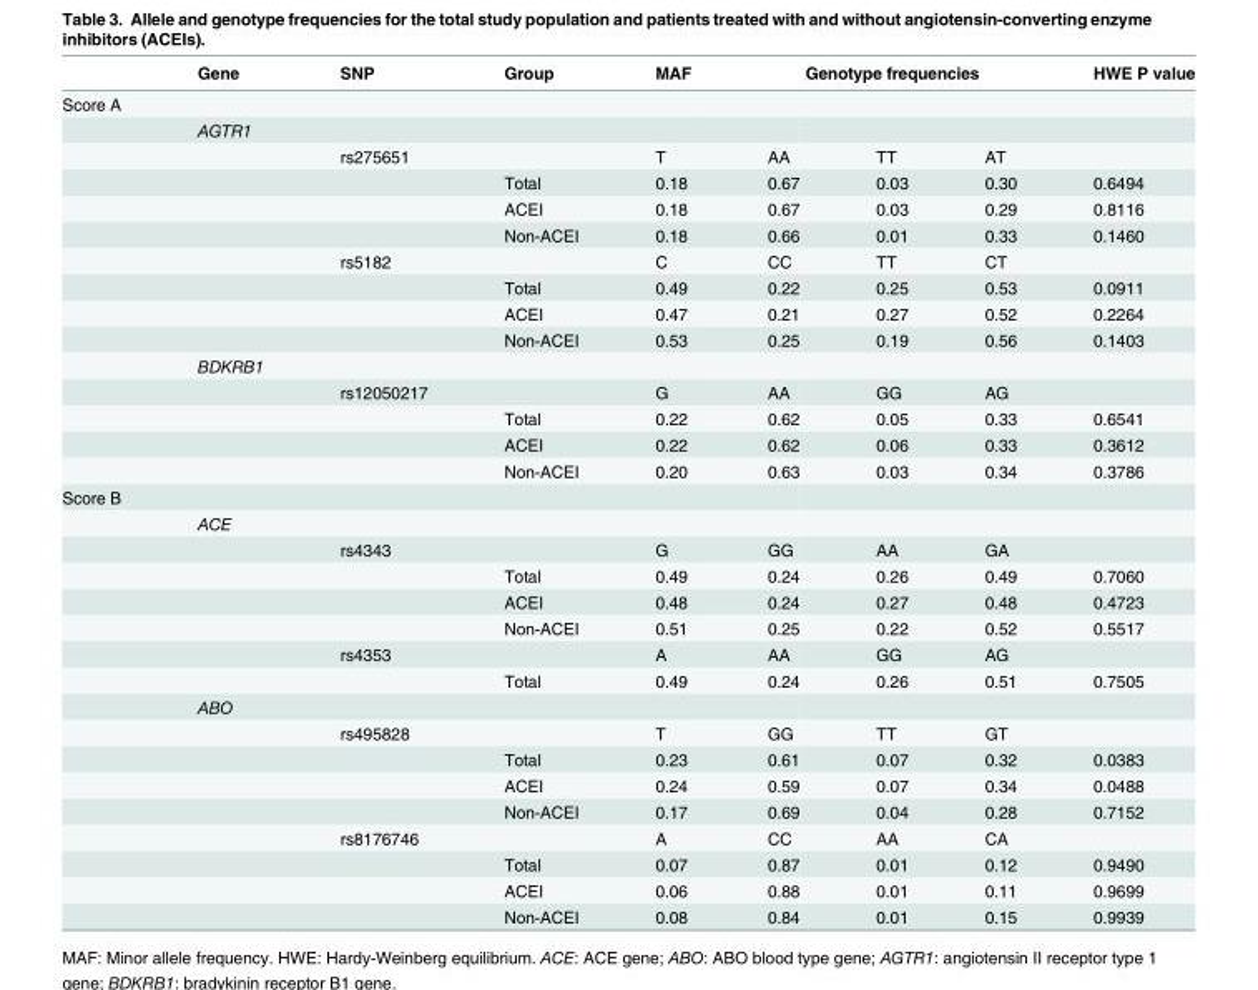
<table><thead><tr><td rowspan="2">Score A</td><td rowspan="2">Gene</td><td rowspan="2">SNP</td><td rowspan="2">Group</td><td rowspan="2">MAF</td><td colspan="3">Genotype frequencies</td><td rowspan="2">HWE P value</td></tr><tr><td></td><td></td><td></td></tr></thead><tbody><tr><td></td><td>AGTR1</td><td></td><td></td><td></td><td></td><td></td><td></td><td></td></tr><tr><td></td><td></td><td>rs275651</td><td></td><td>T</td><td>AA</td><td>TT</td><td>AT</td><td></td></tr><tr><td></td><td></td><td></td><td>Total</td><td>0.18</td><td>0.67</td><td>0.03</td><td>0.30</td><td>0.6494</td></tr><tr><td></td><td></td><td></td><td>ACEI</td><td>0.18</td><td>0.67</td><td>0.03</td><td>0.29</td><td>0.8116</td></tr><tr><td></td><td></td><td></td><td>Non-ACEI</td><td>0.18</td><td>0.66</td><td>0.01</td><td>0.33</td><td>0.1460</td></tr><tr><td></td><td></td><td>rs5182</td><td></td><td>C</td><td>CC</td><td>TT</td><td>CT</td><td></td></tr><tr><td></td><td></td><td></td><td>Total</td><td>0.49</td><td>0.22</td><td>0.25</td><td>0.53</td><td>0.0911</td></tr><tr><td></td><td></td><td></td><td>ACEI</td><td>0.47</td><td>0.21</td><td>0.27</td><td>0.52</td><td>0.2264</td></tr><tr><td></td><td></td><td></td><td>Non-ACEI</td><td>0.53</td><td>0.25</td><td>0.19</td><td>0.56</td><td>0.1403</td></tr><tr><td></td><td>BDKRB1</td><td></td><td></td><td></td><td></td><td></td><td></td><td></td></tr><tr><td></td><td></td><td>rs12050217</td><td></td><td>G</td><td>AA</td><td>GG</td><td>AG</td><td></td></tr><tr><td></td><td></td><td></td><td>Total</td><td>0.22</td><td>0.62</td><td>0.05</td><td>0.33</td><td>0.6541</td></tr><tr><td></td><td></td><td></td><td>ACEI</td><td>0.22</td><td>0.62</td><td>0.06</td><td>0.33</td><td>0.3612</td></tr><tr><td></td><td></td><td></td><td>Non-ACEI</td><td>0.20</td><td>0.63</td><td>0.03</td><td>0.34</td><td>0.3786</td></tr><tr><td colspan="9">Score B</td></tr><tr><td></td><td>ACE</td><td></td><td></td><td></td><td></td><td></td><td></td><td></td></tr><tr><td></td><td></td><td>rs4343</td><td></td><td>G</td><td>GG</td><td>AA</td><td>GA</td><td></td></tr><tr><td></td><td></td><td></td><td>Total</td><td>0.49</td><td>0.24</td><td>0.26</td><td>0.49</td><td>0.7060</td></tr><tr><td></td><td></td><td></td><td>ACEI</td><td>0.48</td><td>0.24</td><td>0.27</td><td>0.48</td><td>0.4723</td></tr><tr><td></td><td></td><td></td><td>Non-ACEI</td><td>0.51</td><td>0.25</td><td>0.22</td><td>0.52</td><td>0.5517</td></tr><tr><td></td><td></td><td>rs4353</td><td></td><td>A</td><td>AA</td><td>GG</td><td>AG</td><td></td></tr><tr><td></td><td></td><td></td><td>Total</td><td>0.49</td><td>0.24</td><td>0.26</td><td>0.51</td><td>0.7505</td></tr><tr><td></td><td>ABO</td><td></td><td></td><td></td><td></td><td></td><td></td><td></td></tr><tr><td></td><td></td><td>rs495828</td><td></td><td>T</td><td>GG</td><td>TT</td><td>GT</td><td></td></tr><tr><td></td><td></td><td></td><td>Total</td><td>0.23</td><td>0.61</td><td>0.07</td><td>0.32</td><td>0.0383</td></tr><tr><td></td><td></td><td></td><td>ACEI</td><td>0.24</td><td>0.59</td><td>0.07</td><td>0.34</td><td>0.0488</td></tr><tr><td></td><td></td><td></td><td>Non-ACEI</td><td>0.17</td><td>0.69</td><td>0.04</td><td>0.28</td><td>0.7152</td></tr><tr><td></td><td></td><td>rs8176746</td><td></td><td>A</td><td>CC</td><td>AA</td><td>CA</td><td></td></tr><tr><td></td><td></td><td></td><td>Total</td><td>0.07</td><td>0.87</td><td>0.01</td><td>0.12</td><td>0.9490</td></tr><tr><td></td><td></td><td></td><td>ACEI</td><td>0.06</td><td>0.88</td><td>0.01</td><td>0.11</td><td>0.9699</td></tr><tr><td></td><td></td><td></td><td>Non-ACEI</td><td>0.08</td><td>0.84</td><td>0.01</td><td>0.15</td><td>0.9939</td></tr></tbody></table>